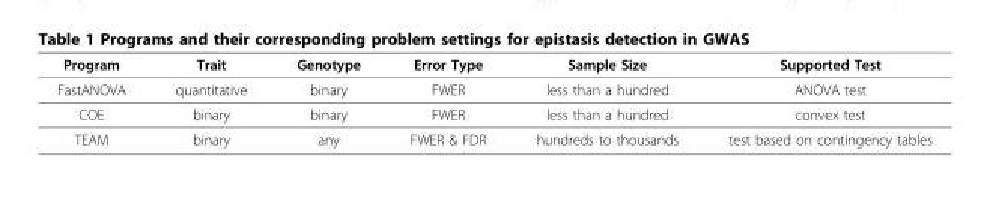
<table><thead><tr><td>Program</td><td>Trait</td><td>Genotype</td><td>Error Type</td><td>Sample Size</td><td>Supported Test</td></tr></thead><tbody><tr><td>FastANOVA</td><td>quantitative</td><td>binary</td><td>FWER</td><td>less than a hundred</td><td>ANOVA test</td></tr><tr><td>COE</td><td>binary</td><td>binary</td><td>FWER</td><td>less than a hundred</td><td>convex test</td></tr><tr><td>TEAM</td><td>binary</td><td>any</td><td>FWER &amp; FDR</td><td>hundreds to thousands</td><td>test based on contingency tables</td></tr></tbody></table>